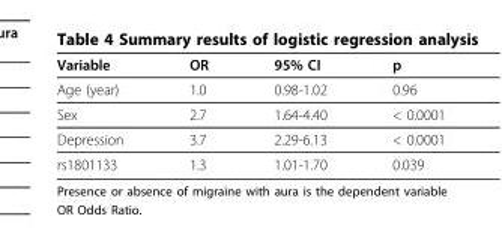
<table><thead><tr><td>Variable</td><td>OR</td><td>95% CI</td><td>p</td></tr></thead><tbody><tr><td>Age (year)</td><td>1.0</td><td>0.98-1.02</td><td>0.96</td></tr><tr><td>Sex</td><td>2.7</td><td>1.64-4.40</td><td>&lt; 0.0001</td></tr><tr><td>Depression</td><td>3.7</td><td>2.29-6.13</td><td>&lt; 0.0001</td></tr><tr><td>rs1801133</td><td>1.3</td><td>1.01-1.70</td><td>0.039</td></tr></tbody></table>